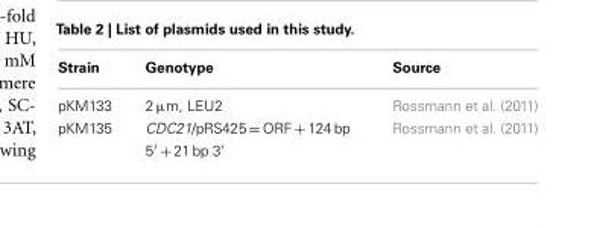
<table><thead><tr><td>Strain</td><td>Genotype</td><td>Source</td></tr></thead><tbody><tr><td>pKM133</td><td>2 µm, LEU2</td><td>Rossmann et al. (2011)</td></tr><tr><td>pKM135</td><td>CDC21/pRS425 = ORF + 124 bp 5′ + 21 bp 3′</td><td>Rossmann et al. (2011)</td></tr></tbody></table>